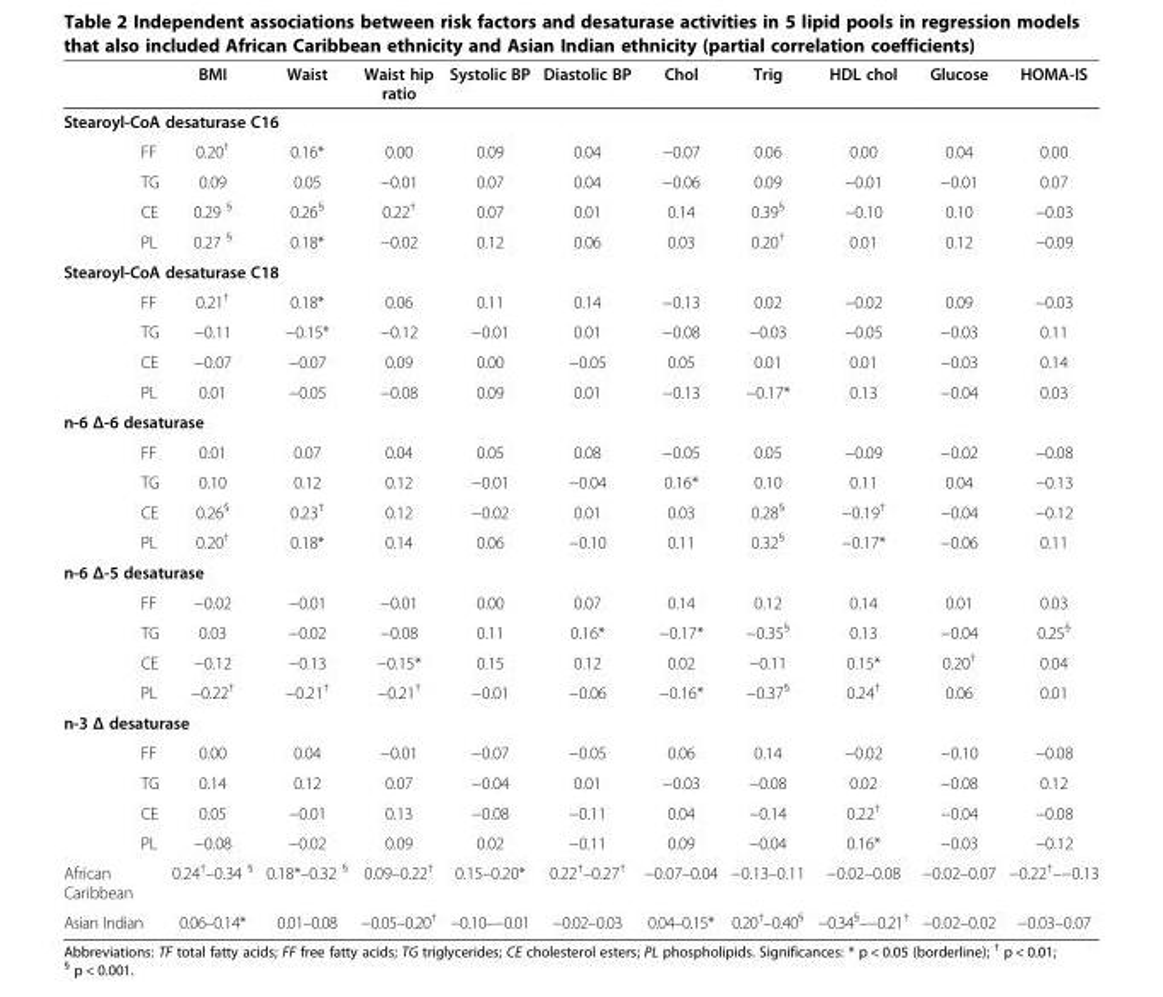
<table><thead><tr><td></td><td>BMI</td><td>Waist</td><td>Waist hip ratio</td><td>Systolic BP</td><td>Diastolic BP</td><td>Chol</td><td>Trig</td><td>HDL chol</td><td>Glucose</td><td>HOMA-IS</td></tr></thead><tbody><tr><td colspan="11">Stearoyl-CoA desaturase C16</td></tr><tr><td>FF</td><td>0.20<sup>†</sup></td><td>0.16*</td><td>0.00</td><td>0.09</td><td>0.04</td><td>−0.07</td><td>0.06</td><td>0.00</td><td>0.04</td><td>0.00</td></tr><tr><td>TG</td><td>0.09</td><td>0.05</td><td>−0.01</td><td>0.07</td><td>0.04</td><td>−0.06</td><td>0.09</td><td>−0.01</td><td>−0.01</td><td>0.07</td></tr><tr><td>CE</td><td>0.29 <sup>§</sup></td><td>0.26<sup>§</sup></td><td>0.22<sup>†</sup></td><td>0.07</td><td>0.01</td><td>0.14</td><td>0.39<sup>§</sup></td><td>−0.10</td><td>0.10</td><td>−0.03</td></tr><tr><td>PL</td><td>0.27 <sup>§</sup></td><td>0.18*</td><td>−0.02</td><td>0.12</td><td>0.06</td><td>0.03</td><td>0.20<sup>†</sup></td><td>0.01</td><td>0.12</td><td>−0.09</td></tr><tr><td colspan="11">Stearoyl-CoA desaturase C18</td></tr><tr><td>FF</td><td>0.21<sup>†</sup></td><td>0.18*</td><td>0.06</td><td>0.11</td><td>0.14</td><td>−0.13</td><td>0.02</td><td>−0.02</td><td>0.09</td><td>−0.03</td></tr><tr><td>TG</td><td>−0.11</td><td>−0.15*</td><td>−0.12</td><td>−0.01</td><td>0.01</td><td>−0.08</td><td>−0.03</td><td>−0.05</td><td>−0.03</td><td>0.11</td></tr><tr><td>CE</td><td>−0.07</td><td>−0.07</td><td>0.09</td><td>0.00</td><td>−0.05</td><td>0.05</td><td>0.01</td><td>0.01</td><td>−0.03</td><td>0.14</td></tr><tr><td>PL</td><td>0.01</td><td>−0.05</td><td>−0.08</td><td>0.09</td><td>0.01</td><td>−0.13</td><td>−0.17*</td><td>0.13</td><td>−0.04</td><td>0.03</td></tr><tr><td colspan="11">n-6 Δ-6 desaturase</td></tr><tr><td>FF</td><td>0.01</td><td>0.07</td><td>0.04</td><td>0.05</td><td>0.08</td><td>−0.05</td><td>0.05</td><td>−0.09</td><td>−0.02</td><td>−0.08</td></tr><tr><td>TG</td><td>0.10</td><td>0.12</td><td>0.12</td><td>−0.01</td><td>−0.04</td><td>0.16*</td><td>0.10</td><td>0.11</td><td>0.04</td><td>−0.13</td></tr><tr><td>CE</td><td>0.26<sup>§</sup></td><td>0.23<sup>†</sup></td><td>0.12</td><td>−0.02</td><td>0.01</td><td>0.03</td><td>0.28<sup>§</sup></td><td>−0.19<sup>†</sup></td><td>−0.04</td><td>−0.12</td></tr><tr><td>PL</td><td>0.20<sup>†</sup></td><td>0.18*</td><td>0.14</td><td>0.06</td><td>−0.10</td><td>0.11</td><td>0.32<sup>§</sup></td><td>−0.17*</td><td>−0.06</td><td>0.11</td></tr><tr><td colspan="11">n-6 Δ-5 desaturase</td></tr><tr><td>FF</td><td>−0.02</td><td>−0.01</td><td>−0.01</td><td>0.00</td><td>0.07</td><td>0.14</td><td>0.12</td><td>0.14</td><td>0.01</td><td>0.03</td></tr><tr><td>TG</td><td>0.03</td><td>−0.02</td><td>−0.08</td><td>0.11</td><td>0.16*</td><td>−0.17*</td><td>−0.35<sup>§</sup></td><td>0.13</td><td>−0.04</td><td>0.25<sup>§</sup></td></tr><tr><td>CE</td><td>−0.12</td><td>−0.13</td><td>−0.15*</td><td>0.15</td><td>0.12</td><td>0.02</td><td>−0.11</td><td>0.15*</td><td>0.20<sup>†</sup></td><td>0.04</td></tr><tr><td>PL</td><td>−0.22<sup>†</sup></td><td>−0.21<sup>†</sup></td><td>−0.21<sup>†</sup></td><td>−0.01</td><td>−0.06</td><td>−0.16*</td><td>−0.37<sup>§</sup></td><td>0.24<sup>†</sup></td><td>0.06</td><td>0.01</td></tr><tr><td colspan="11">n-3 Δ desaturase</td></tr><tr><td>FF</td><td>0.00</td><td>0.04</td><td>−0.01</td><td>−0.07</td><td>−0.05</td><td>0.06</td><td>0.14</td><td>−0.02</td><td>−0.10</td><td>−0.08</td></tr><tr><td>TG</td><td>0.14</td><td>0.12</td><td>0.07</td><td>−0.04</td><td>0.01</td><td>−0.03</td><td>−0.08</td><td>0.02</td><td>−0.08</td><td>0.12</td></tr><tr><td>CE</td><td>0.05</td><td>−0.01</td><td>0.13</td><td>−0.08</td><td>−0.11</td><td>0.04</td><td>−0.14</td><td>0.22<sup>†</sup></td><td>−0.04</td><td>−0.08</td></tr><tr><td>PL</td><td>−0.08</td><td>−0.02</td><td>0.09</td><td>0.02</td><td>−0.11</td><td>0.09</td><td>−0.04</td><td>0.16*</td><td>−0.03</td><td>−0.12</td></tr><tr><td>African Caribbean</td><td>0.24<sup>†</sup>–0.34 <sup>§</sup></td><td>0.18*–0.32 <sup>§</sup></td><td>0.09–0.22<sup>†</sup></td><td>0.15–0.20*</td><td>0.22<sup>†</sup>–0.27<sup>†</sup></td><td>−0.07–0.04</td><td>−0.13–0.11</td><td>−0.02–0.08</td><td>−0.02–0.07</td><td>−0.22<sup>†</sup>–−0.13</td></tr><tr><td>Asian Indian</td><td>0.06–0.14*</td><td>0.01–0.08</td><td>−0.05–0.20<sup>†</sup></td><td>−0.10–−0.01</td><td>−0.02–0.03</td><td>0.04–0.15*</td><td>0.20<sup>†</sup>–0.40<sup>§</sup></td><td>−0.34<sup>§</sup>–−0.21<sup>†</sup></td><td>−0.02–0.02</td><td>−0.03–0.07</td></tr></tbody></table>